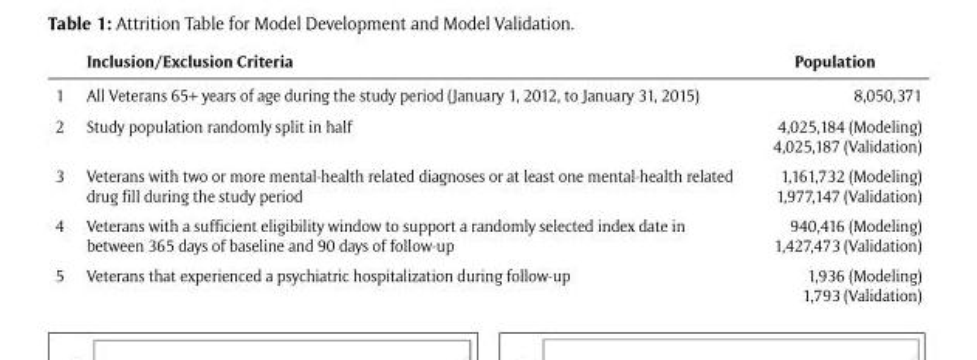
<table><thead><tr><td></td><td>Inclusion/Exclusion Criteria</td><td>Population</td></tr></thead><tbody><tr><td>1</td><td>All Veterans 65+ years of age during the study period (January 1, 2012, to January 31, 2015)</td><td>8,050,371</td></tr><tr><td>2</td><td>Study population randomly split in half</td><td>4,025,184 (Modeling) 4,025,187 (Validation)</td></tr><tr><td>3</td><td>Veterans with two or more mental-health related diagnoses or at least one mental-health related drug fill during the study period</td><td>1,161,732 (Modeling) 1,977,147 (Validation)</td></tr><tr><td>4</td><td>Veterans with a sufficient eligibility window to support a randomly selected index date in between 365 days of baseline and 90 days of follow-up</td><td>940,416 (Modeling) 1,427,473 (Validation)</td></tr><tr><td>5</td><td>Veterans that experienced a psychiatric hospitalization during follow-up</td><td>1,936 (Modeling) 1,793 (Validation)</td></tr></tbody></table>